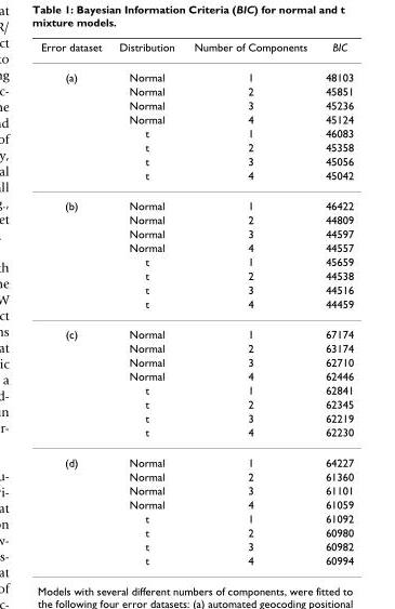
<table><thead><tr><td>Error dataset</td><td>Distribution</td><td>Number of Components</td><td>BIC</td></tr></thead><tbody><tr><td rowspan="8">(a)</td><td>Normal</td><td>1</td><td>48103</td></tr><tr><td>Normal</td><td>2</td><td>45851</td></tr><tr><td>Normal</td><td>3</td><td>45236</td></tr><tr><td>Normal</td><td>4</td><td>45124</td></tr><tr><td>t</td><td>1</td><td>46083</td></tr><tr><td>t</td><td>2</td><td>45358</td></tr><tr><td>t</td><td>3</td><td>45056</td></tr><tr><td>t</td><td>4</td><td>45042</td></tr><tr><td rowspan="8">(b)</td><td>Normal</td><td>1</td><td>46422</td></tr><tr><td>Normal</td><td>2</td><td>44809</td></tr><tr><td>Normal</td><td>3</td><td>44597</td></tr><tr><td>Normal</td><td>4</td><td>44557</td></tr><tr><td>t</td><td>1</td><td>45659</td></tr><tr><td>t</td><td>2</td><td>44538</td></tr><tr><td>t</td><td>3</td><td>44516</td></tr><tr><td>t</td><td>4</td><td>44459</td></tr><tr><td rowspan="8">(c)</td><td>Normal</td><td>1</td><td>67174</td></tr><tr><td>Normal</td><td>2</td><td>63174</td></tr><tr><td>Normal</td><td>3</td><td>62710</td></tr><tr><td>Normal</td><td>4</td><td>62446</td></tr><tr><td>t</td><td>1</td><td>62841</td></tr><tr><td>t</td><td>2</td><td>62345</td></tr><tr><td>t</td><td>3</td><td>62219</td></tr><tr><td>t</td><td>4</td><td>62230</td></tr><tr><td rowspan="8">(d)</td><td>Normal</td><td>1</td><td>64227</td></tr><tr><td>Normal</td><td>2</td><td>61360</td></tr><tr><td>Normal</td><td>3</td><td>61101</td></tr><tr><td>Normal</td><td>4</td><td>61059</td></tr><tr><td>t</td><td>1</td><td>61092</td></tr><tr><td>t</td><td>2</td><td>60980</td></tr><tr><td>t</td><td>3</td><td>60982</td></tr><tr><td>t</td><td>4</td><td>60994</td></tr></tbody></table>